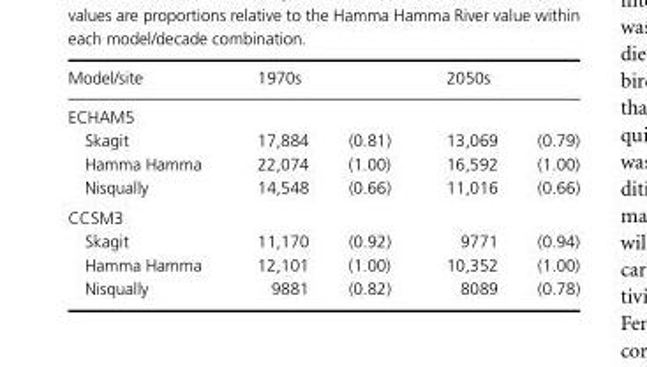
<table><thead><tr><td>Model/site</td><td>1970s</td><td></td><td>2050s</td><td></td></tr></thead><tbody><tr><td colspan="5">ECHAM5</td></tr><tr><td>Skagit</td><td>17,884</td><td>(0.81)</td><td>13,069</td><td>(0.79)</td></tr><tr><td>Hamma Hamma</td><td>22,074</td><td>(1.00)</td><td>16,592</td><td>(1.00)</td></tr><tr><td>Nisqually</td><td>14,548</td><td>(0.66)</td><td>11,016</td><td>(0.66)</td></tr><tr><td colspan="5">CCSM3</td></tr><tr><td>Skagit</td><td>11,170</td><td>(0.92)</td><td>9771</td><td>(0.94)</td></tr><tr><td>Hamma Hamma</td><td>12,101</td><td>(1.00)</td><td>10,352</td><td>(1.00)</td></tr><tr><td>Nisqually</td><td>9881</td><td>(0.82)</td><td>8089</td><td>(0.78)</td></tr></tbody></table>